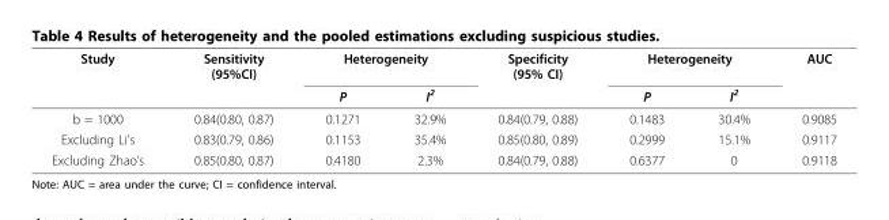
<table><thead><tr><td rowspan="2">Study</td><td rowspan="2">Sensitivity (95%CI)</td><td colspan="2">Heterogeneity</td><td rowspan="2">Specificity (95% CI)</td><td colspan="2">Heterogeneity</td><td rowspan="2">AUC</td></tr><tr><td>P</td><td>I<sup>2</sup></td><td>P</td><td>I<sup>2</sup></td></tr></thead><tbody><tr><td>b = 1000</td><td>0.84(0.80, 0.87)</td><td>0.1271</td><td>32.9%</td><td>0.84(0.79, 0.88)</td><td>0.1483</td><td>30.4%</td><td>0.9085</td></tr><tr><td>Excluding Li’s</td><td>0.83(0.79, 0.86)</td><td>0.1153</td><td>35.4%</td><td>0.85(0.80, 0.89)</td><td>0.2999</td><td>15.1%</td><td>0.9117</td></tr><tr><td>Excluding Zhao’s</td><td>0.85(0.80, 0.87)</td><td>0.4180</td><td>2.3%</td><td>0.84(0.79, 0.88)</td><td>0.6377</td><td>0</td><td>0.9118</td></tr></tbody></table>